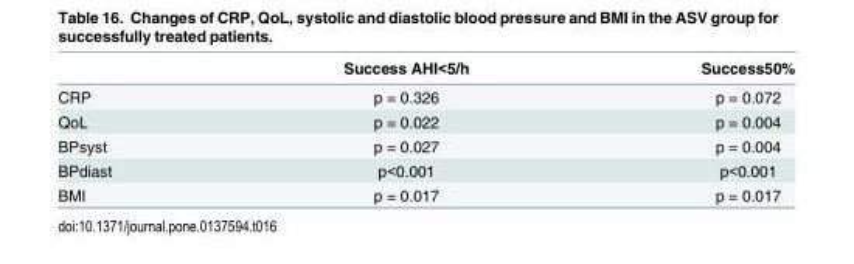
<table><thead><tr><td></td><td>Success AHI&lt;5/h</td><td>Success50%</td></tr></thead><tbody><tr><td>CRP</td><td>p = 0.326</td><td>p = 0.072</td></tr><tr><td>QoL</td><td>p = 0.022</td><td>p = 0.004</td></tr><tr><td>BPsyst</td><td>p = 0.027</td><td>p = 0.004</td></tr><tr><td>BPdiast</td><td>p&lt;0.001</td><td>p&lt;0.001</td></tr><tr><td>BMI</td><td>p = 0.017</td><td>p = 0.017</td></tr></tbody></table>